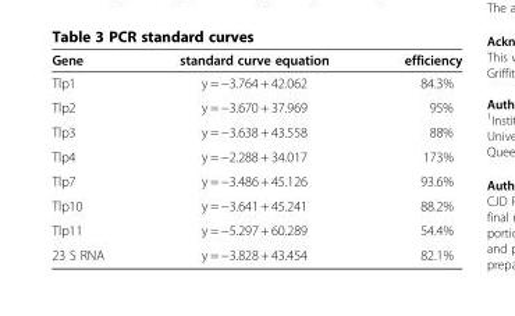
<table><thead><tr><td>Gene</td><td>standard curve equation</td><td>efficiency</td></tr></thead><tbody><tr><td>Tlp1</td><td>y = −3.764 + 42.062</td><td>84.3%</td></tr><tr><td>Tlp2</td><td>y = −3.670 + 37.969</td><td>95%</td></tr><tr><td>Tlp3</td><td>y = −3.638 + 43.558</td><td>88%</td></tr><tr><td>Tlp4</td><td>y = −2.288 + 34.017</td><td>173%</td></tr><tr><td>Tlp7</td><td>y = −3.486 + 45.126</td><td>93.6%</td></tr><tr><td>Tlp10</td><td>y = −3.641 + 45.241</td><td>88.2%</td></tr><tr><td>Tlp11</td><td>y = −5.297 + 60.289</td><td>54.4%</td></tr><tr><td>23 S RNA</td><td>y = −3.828 + 43.454</td><td>82.1%</td></tr></tbody></table>